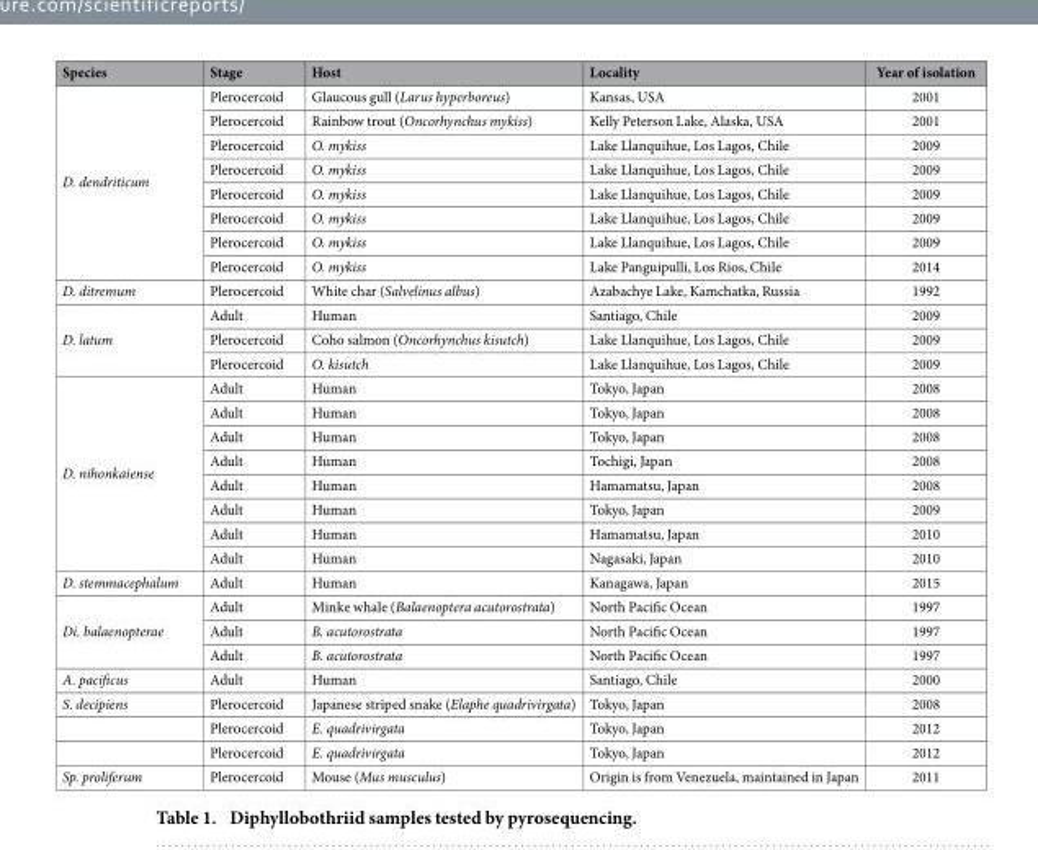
<table><thead><tr><td>Species</td><td>Stage</td><td>Host</td><td>Locality</td><td>Year of isolation</td></tr></thead><tbody><tr><td rowspan="8">D. dendriticum</td><td>Plerocercoid</td><td>Glaucous gull (Larus hyperboreus)</td><td>Kansas, USA</td><td>2001</td></tr><tr><td>Plerocercoid</td><td>Rainbow trout (Oncorhynchus mykiss)</td><td>Kelly Peterson Lake, Alaska, USA</td><td>2001</td></tr><tr><td>Plerocercoid</td><td>O. mykiss</td><td>Lake Llanquihue, Los Lagos, Chile</td><td>2009</td></tr><tr><td>Plerocercoid</td><td>O. mykiss</td><td>Lake Llanquihue, Los Lagos, Chile</td><td>2009</td></tr><tr><td>Plerocercoid</td><td>O. mykiss</td><td>Lake Llanquihue, Los Lagos, Chile</td><td>2009</td></tr><tr><td>Plerocercoid</td><td>O. mykiss</td><td>Lake Llanquihue, Los Lagos, Chile</td><td>2009</td></tr><tr><td>Plerocercoid</td><td>O. mykiss</td><td>Lake Llanquihue, Los Lagos, Chile</td><td>2009</td></tr><tr><td>Plerocercoid</td><td>O. mykiss</td><td>Lake Panguipulli, Los Rios, Chile</td><td>2014</td></tr><tr><td>D. ditremum</td><td>Plerocercoid</td><td>White char (Salvelinus albus)</td><td>Azabachye Lake, Kamchatka, Russia</td><td>1992</td></tr><tr><td rowspan="3">D. latum</td><td>Adult</td><td>Human</td><td>Santiago, Chile</td><td>2009</td></tr><tr><td>Plerocercoid</td><td>Coho salmon (Oncorhynchus kisutch)</td><td>Lake Llanquihue, Los Lagos, Chile</td><td>2009</td></tr><tr><td>Plerocercoid</td><td>O. kisutch</td><td>Lake Llanquihue, Los Lagos, Chile</td><td>2009</td></tr><tr><td rowspan="8">D. nihonkaiense</td><td>Adult</td><td>Human</td><td>Tokyo, Japan</td><td>2008</td></tr><tr><td>Adult</td><td>Human</td><td>Tokyo, Japan</td><td>2008</td></tr><tr><td>Adult</td><td>Human</td><td>Tokyo, Japan</td><td>2008</td></tr><tr><td>Adult</td><td>Human</td><td>Tochigi, Japan</td><td>2008</td></tr><tr><td>Adult</td><td>Human</td><td>Hamamatsu, Japan</td><td>2008</td></tr><tr><td>Adult</td><td>Human</td><td>Tokyo, Japan</td><td>2009</td></tr><tr><td>Adult</td><td>Human</td><td>Hamamatsu, Japan</td><td>2010</td></tr><tr><td>Adult</td><td>Human</td><td>Nagasaki, Japan</td><td>2010</td></tr><tr><td>D. stemmacephalum</td><td>Adult</td><td>Human</td><td>Kanagawa, Japan</td><td>2015</td></tr><tr><td rowspan="3">Di. balaenopterae</td><td>Adult</td><td>Minke whale (Balaenoptera acutorostrata)</td><td>North Pacific Ocean</td><td>1997</td></tr><tr><td>Adult</td><td>B. acutorostrata</td><td>North Pacific Ocean</td><td>1997</td></tr><tr><td>Adult</td><td>B. acutorostrata</td><td>North Pacific Ocean</td><td>1997</td></tr><tr><td>A. pacificus</td><td>Adult</td><td>Human</td><td>Santiago, Chile</td><td>2000</td></tr><tr><td rowspan="3">S. decipiens</td><td>Plerocercoid</td><td>Japanese striped snake (Elaphe quadrivirgata)</td><td>Tokyo, Japan</td><td>2008</td></tr><tr><td>Plerocercoid</td><td>E. quadrivirgata</td><td>Tokyo, Japan</td><td>2012</td></tr><tr><td>Plerocercoid</td><td>E. quadrivirgata</td><td>Tokyo, Japan</td><td>2012</td></tr><tr><td>Sp. proliferum</td><td>Plerocercoid</td><td>Mouse (Mus musculus)</td><td>Origin is from Venezuela, maintained in Japan</td><td>2011</td></tr></tbody></table>